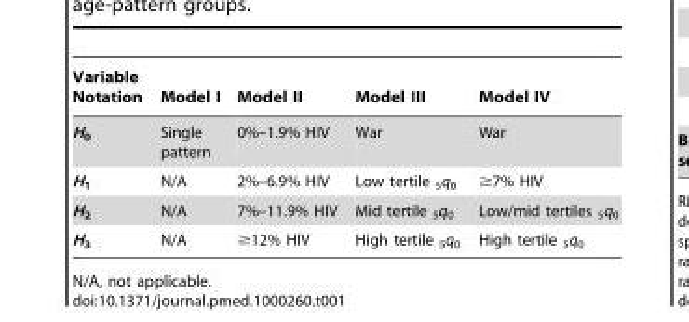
<table><thead><tr><td>Variable Notation</td><td>Model I</td><td>Model II</td><td>Model III</td><td>Model IV</td></tr></thead><tbody><tr><td>H<sub>0</sub></td><td>Single pattern</td><td>0%–1.9% HIV</td><td>War</td><td>War</td></tr><tr><td>H<sub>1</sub></td><td>N/A</td><td>2%–6.9% HIV</td><td>Low tertile <sub>5</sub>q<sub>0</sub></td><td>≥7% HIV</td></tr><tr><td>H<sub>2</sub></td><td>N/A</td><td>7%–11.9% HIV</td><td>Mid tertile <sub>5</sub>q<sub>0</sub></td><td>Low/mid tertiles <sub>5</sub>q<sub>0</sub></td></tr><tr><td>H<sub>3</sub></td><td>N/A</td><td>≥12% HIV</td><td>High tertile <sub>5</sub>q<sub>0</sub></td><td>High tertile <sub>5</sub>q<sub>0</sub></td></tr></tbody></table>